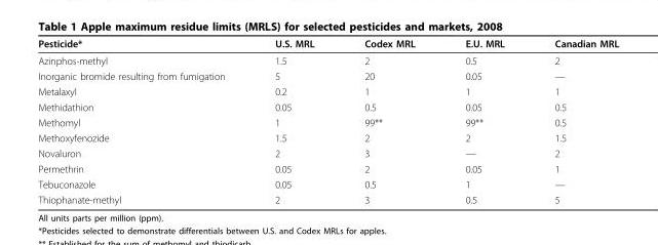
<table><thead><tr><td>Pesticide*</td><td>U.S. MRL</td><td>Codex MRL</td><td>E.U. MRL</td><td>Canadian MRL</td></tr></thead><tbody><tr><td>Azinphos-methyl</td><td>1.5</td><td>2</td><td>0.5</td><td>2</td></tr><tr><td>Inorganic bromide resulting from fumigation</td><td>5</td><td>20</td><td>0.05</td><td>—</td></tr><tr><td>Metalaxyl</td><td>0.2</td><td>1</td><td>1</td><td>1</td></tr><tr><td>Methidathion</td><td>0.05</td><td>0.5</td><td>0.05</td><td>0.5</td></tr><tr><td>Methomyl</td><td>1</td><td>99**</td><td>99**</td><td>0.5</td></tr><tr><td>Methoxyfenozide</td><td>1.5</td><td>2</td><td>2</td><td>1.5</td></tr><tr><td>Novaluron</td><td>2</td><td>3</td><td>—</td><td>2</td></tr><tr><td>Permethrin</td><td>0.05</td><td>2</td><td>0.05</td><td>1</td></tr><tr><td>Tebuconazole</td><td>0.05</td><td>0.5</td><td>1</td><td>—</td></tr><tr><td>Thiophanate-methyl</td><td>2</td><td>3</td><td>0.5</td><td>5</td></tr></tbody></table>